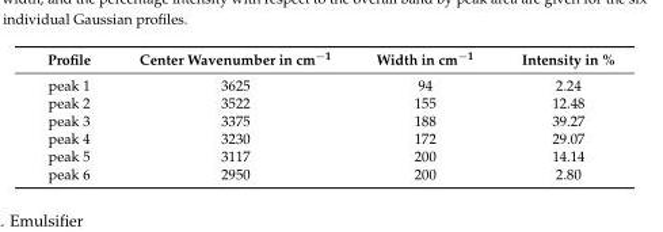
<table><thead><tr><td>Profile</td><td>Center Wavenumber in cm<sup>−1</sup></td><td>Width in cm<sup>−1</sup></td><td>Intensity in %</td></tr></thead><tbody><tr><td>peak 1</td><td>3625</td><td>94</td><td>2.24</td></tr><tr><td>peak 2</td><td>3522</td><td>155</td><td>12.48</td></tr><tr><td>peak 3</td><td>3375</td><td>188</td><td>39.27</td></tr><tr><td>peak 4</td><td>3230</td><td>172</td><td>29.07</td></tr><tr><td>peak 5</td><td>3117</td><td>200</td><td>14.14</td></tr><tr><td>peak 6</td><td>2950</td><td>200</td><td>2.80</td></tr></tbody></table>